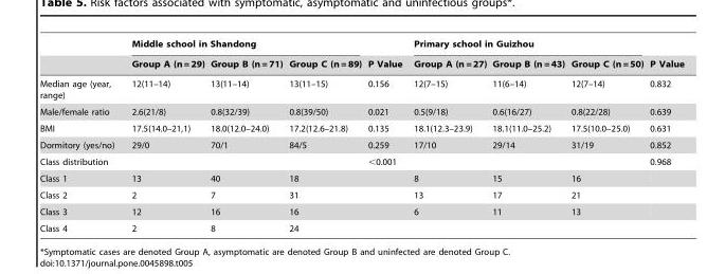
<table><thead><tr><td rowspan="2"></td><td colspan="3">Middle school in Shandong</td><td rowspan="2">P Value</td><td colspan="3">Primary school in Guizhou</td><td rowspan="2">P Value</td></tr><tr><td>Group A (n = 29)</td><td>Group B (n = 71)</td><td>Group C (n = 89)</td><td>Group A (n = 27)</td><td>Group B (n = 43)</td><td>Group C (n = 50)</td></tr></thead><tbody><tr><td>Median age (year, range)</td><td>12(11–14)</td><td>13(11–14)</td><td>13(11–15)</td><td>0.156</td><td>12(7–15)</td><td>11(6–14)</td><td>12(7–14)</td><td>0.832</td></tr><tr><td>Male/female ratio</td><td>2.6(21/8)</td><td>0.8(32/39)</td><td>0.8(39/50)</td><td>0.021</td><td>0.5(9/18)</td><td>0.6(16/27)</td><td>0.8(22/28)</td><td>0.639</td></tr><tr><td>BMI</td><td>17.5(14.0–21,1)</td><td>18.0(12.0–24.0)</td><td>17.2(12.6–21.8)</td><td>0.135</td><td>18.1(12.3–23.9)</td><td>18.1(11.0–25.2)</td><td>17.5(10.0–25.0)</td><td>0.631</td></tr><tr><td>Dormitory (yes/no)</td><td>29/0</td><td>70/1</td><td>84/5</td><td>0.259</td><td>17/10</td><td>29/14</td><td>31/19</td><td>0.852</td></tr><tr><td>Class distribution</td><td></td><td></td><td></td><td>&lt;0.001</td><td></td><td></td><td></td><td>0.968</td></tr><tr><td>Class 1</td><td>13</td><td>40</td><td>18</td><td></td><td>8</td><td>15</td><td>16</td><td></td></tr><tr><td>Class 2</td><td>2</td><td>7</td><td>31</td><td></td><td>13</td><td>17</td><td>21</td><td></td></tr><tr><td>Class 3</td><td>12</td><td>16</td><td>16</td><td></td><td>6</td><td>11</td><td>13</td><td></td></tr><tr><td>Class 4</td><td>2</td><td>8</td><td>24</td><td></td><td></td><td></td><td></td><td></td></tr></tbody></table>